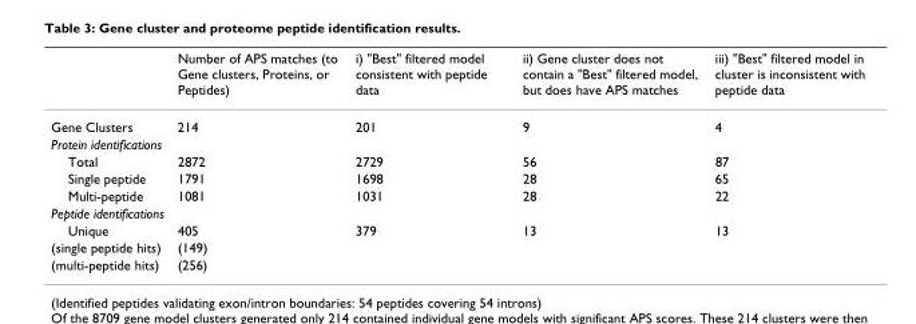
<table><thead><tr><td></td><td>Number of APS matches (to Gene clusters, Proteins, or Peptides)</td><td>i) &quot;Best&quot; filtered model consistent with peptide data</td><td>ii) Gene cluster does not contain a &quot;Best&quot; filtered model, but does have APS matches</td><td>iii) &quot;Best&quot; filtered model in cluster is inconsistent with peptide data</td></tr></thead><tbody><tr><td>Gene Clusters</td><td>214</td><td>201</td><td>9</td><td>4</td></tr><tr><td colspan="5">Protein identifications</td></tr><tr><td>Total</td><td>2872</td><td>2729</td><td>56</td><td>87</td></tr><tr><td>Single peptide</td><td>1791</td><td>1698</td><td>28</td><td>65</td></tr><tr><td>Multi-peptide</td><td>1081</td><td>1031</td><td>28</td><td>22</td></tr><tr><td colspan="5">Peptide identifications</td></tr><tr><td>Unique</td><td>405</td><td>379</td><td>13</td><td>13</td></tr><tr><td>(single peptide hits)</td><td>(149)</td><td></td><td></td><td></td></tr><tr><td>(multi-peptide hits)</td><td>(256)</td><td></td><td></td><td></td></tr></tbody></table>